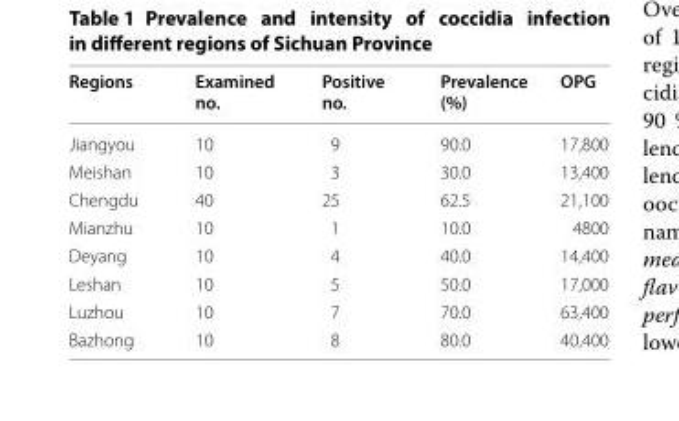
<table><thead><tr><td>Regions</td><td>Examined no.</td><td>Positive no.</td><td>Prevalence (%)</td><td>OPG</td></tr></thead><tbody><tr><td>Jiangyou</td><td>10</td><td>9</td><td>90.0</td><td>17,800</td></tr><tr><td>Meishan</td><td>10</td><td>3</td><td>30.0</td><td>13,400</td></tr><tr><td>Chengdu</td><td>40</td><td>25</td><td>62.5</td><td>21,100</td></tr><tr><td>Mianzhu</td><td>10</td><td>1</td><td>10.0</td><td>4800</td></tr><tr><td>Deyang</td><td>10</td><td>4</td><td>40.0</td><td>14,400</td></tr><tr><td>Leshan</td><td>10</td><td>5</td><td>50.0</td><td>17,000</td></tr><tr><td>Luzhou</td><td>10</td><td>7</td><td>70.0</td><td>63,400</td></tr><tr><td>Bazhong</td><td>10</td><td>8</td><td>80.0</td><td>40,400</td></tr></tbody></table>